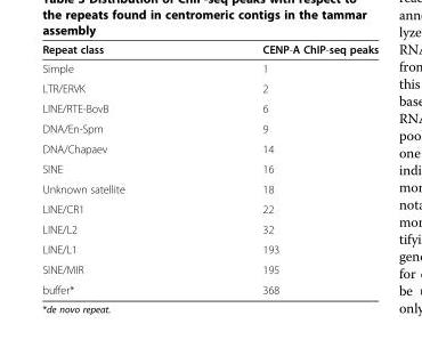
<table><thead><tr><td>Repeat class</td><td>CENP-A ChIP-seq peaks</td></tr></thead><tbody><tr><td>Simple</td><td>1</td></tr><tr><td>LTR/ERVK</td><td>2</td></tr><tr><td>LINE/RTE-BovB</td><td>6</td></tr><tr><td>DNA/En-Spm</td><td>9</td></tr><tr><td>DNA/Chapaev</td><td>14</td></tr><tr><td>SINE</td><td>16</td></tr><tr><td>Unknown satellite</td><td>18</td></tr><tr><td>LINE/CR1</td><td>22</td></tr><tr><td>LINE/L2</td><td>32</td></tr><tr><td>LINE/L1</td><td>193</td></tr><tr><td>SINE/MIR</td><td>195</td></tr><tr><td>buffer*</td><td>368</td></tr></tbody></table>